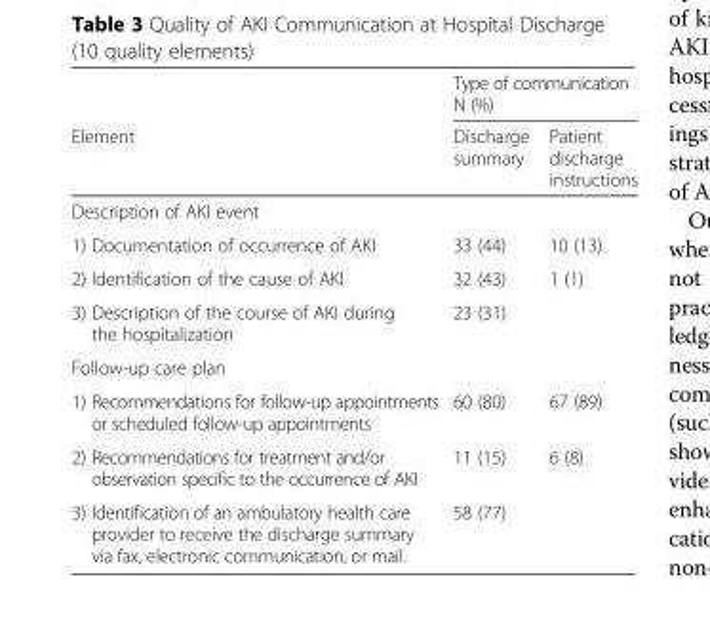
<table><thead><tr><td rowspan="2">Element</td><td colspan="2">Type of communication N (%)</td></tr><tr><td>Discharge summary</td><td>Patient discharge instructions</td></tr></thead><tbody><tr><td colspan="3">Description of AKI event</td></tr><tr><td>1) Documentation of occurrence of AKI</td><td>33 (44)</td><td>10 (13)</td></tr><tr><td>2) Identification of the cause of AKI</td><td>32 (43)</td><td>1 (1)</td></tr><tr><td>3) Description of the course of AKI during the hospitalization</td><td>23 (31)</td><td></td></tr><tr><td colspan="3">Follow-up care plan</td></tr><tr><td>1) Recommendations for follow-up appointments or scheduled follow-up appointments</td><td>60 (80)</td><td>67 (89)</td></tr><tr><td>2) Recommendations for treatment and/or observation specific to the occurrence of AKI</td><td>11 (15)</td><td>6 (8)</td></tr><tr><td>3) Identification of an ambulatory health care provider to receive the discharge summary via fax, electronic communication, or mail.</td><td>58 (77)</td><td></td></tr></tbody></table>